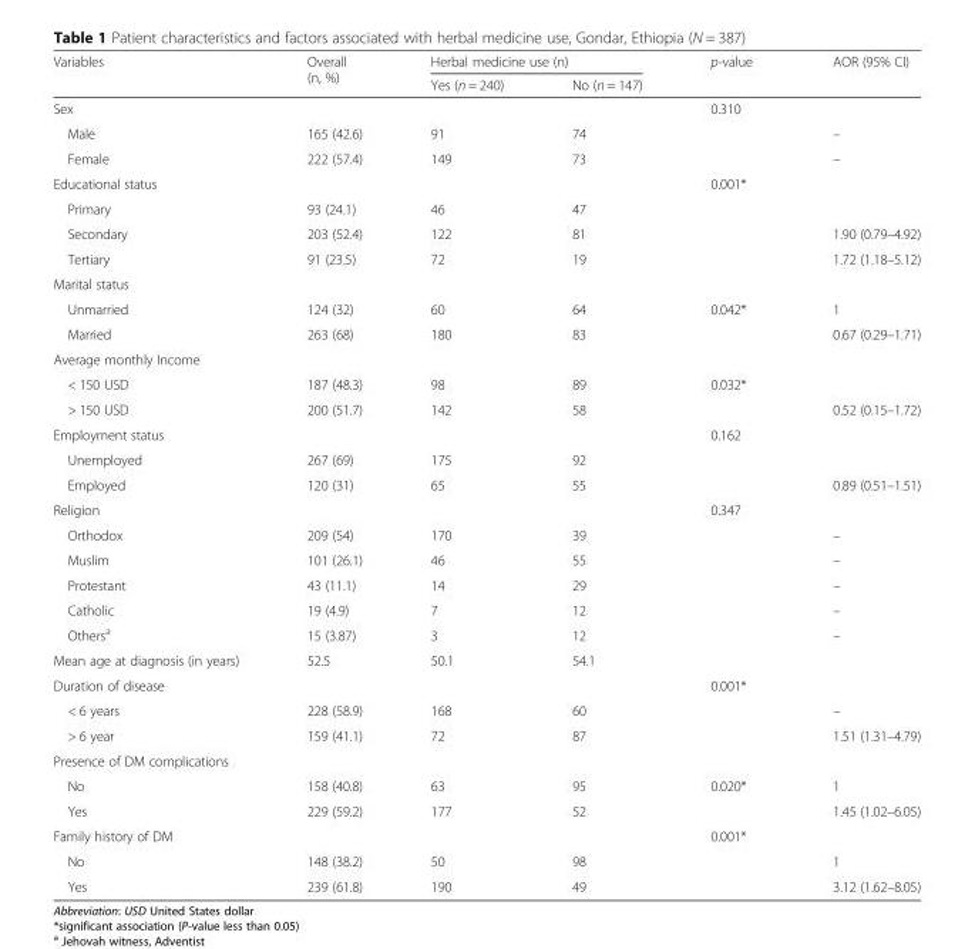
<table><thead><tr><td rowspan="2">Variables</td><td rowspan="2">Overall (n, %)</td><td colspan="2">Herbal medicine use (n)</td><td rowspan="2">p-value</td><td rowspan="2">AOR (95% CI)</td></tr><tr><td>Yes (n = 240)</td><td>No (n = 147)</td></tr></thead><tbody><tr><td>Sex</td><td></td><td></td><td></td><td>0.310</td><td></td></tr><tr><td>Male</td><td>165 (42.6)</td><td>91</td><td>74</td><td></td><td>–</td></tr><tr><td>Female</td><td>222 (57.4)</td><td>149</td><td>73</td><td></td><td>–</td></tr><tr><td>Educational status</td><td></td><td></td><td></td><td>0.001*</td><td></td></tr><tr><td>Primary</td><td>93 (24.1)</td><td>46</td><td>47</td><td></td><td></td></tr><tr><td>Secondary</td><td>203 (52.4)</td><td>122</td><td>81</td><td></td><td>1.90 (0.79–4.92)</td></tr><tr><td>Tertiary</td><td>91 (23.5)</td><td>72</td><td>19</td><td></td><td>1.72 (1.18–5.12)</td></tr><tr><td colspan="6">Marital status</td></tr><tr><td>Unmarried</td><td>124 (32)</td><td>60</td><td>64</td><td>0.042*</td><td>1</td></tr><tr><td>Married</td><td>263 (68)</td><td>180</td><td>83</td><td></td><td>0.67 (0.29–1.71)</td></tr><tr><td colspan="6">Average monthly Income</td></tr><tr><td>&lt; 150 USD</td><td>187 (48.3)</td><td>98</td><td>89</td><td>0.032*</td><td></td></tr><tr><td>&gt; 150 USD</td><td>200 (51.7)</td><td>142</td><td>58</td><td></td><td>0.52 (0.15–1.72)</td></tr><tr><td>Employment status</td><td></td><td></td><td></td><td>0.162</td><td></td></tr><tr><td>Unemployed</td><td>267 (69)</td><td>175</td><td>92</td><td></td><td></td></tr><tr><td>Employed</td><td>120 (31)</td><td>65</td><td>55</td><td></td><td>0.89 (0.51–1.51)</td></tr><tr><td>Religion</td><td></td><td></td><td></td><td>0.347</td><td></td></tr><tr><td>Orthodox</td><td>209 (54)</td><td>170</td><td>39</td><td></td><td>–</td></tr><tr><td>Muslim</td><td>101 (26.1)</td><td>46</td><td>55</td><td></td><td>–</td></tr><tr><td>Protestant</td><td>43 (11.1)</td><td>14</td><td>29</td><td></td><td>–</td></tr><tr><td>Catholic</td><td>19 (4.9)</td><td>7</td><td>12</td><td></td><td>–</td></tr><tr><td>Others<sup>a</sup></td><td>15 (3.87)</td><td>3</td><td>12</td><td></td><td>–</td></tr><tr><td>Mean age at diagnosis (in years)</td><td>52.5</td><td>50.1</td><td>54.1</td><td></td><td></td></tr><tr><td>Duration of disease</td><td></td><td></td><td></td><td>0.001*</td><td></td></tr><tr><td>&lt; 6 years</td><td>228 (58.9)</td><td>168</td><td>60</td><td></td><td>–</td></tr><tr><td>&gt; 6 year</td><td>159 (41.1)</td><td>72</td><td>87</td><td></td><td>1.51 (1.31–4.79)</td></tr><tr><td colspan="6">Presence of DM complications</td></tr><tr><td>No</td><td>158 (40.8)</td><td>63</td><td>95</td><td>0.020*</td><td>1</td></tr><tr><td>Yes</td><td>229 (59.2)</td><td>177</td><td>52</td><td></td><td>1.45 (1.02–6.05)</td></tr><tr><td>Family history of DM</td><td></td><td></td><td></td><td>0.001*</td><td></td></tr><tr><td>No</td><td>148 (38.2)</td><td>50</td><td>98</td><td></td><td>1</td></tr><tr><td>Yes</td><td>239 (61.8)</td><td>190</td><td>49</td><td></td><td>3.12 (1.62–8.05)</td></tr></tbody></table>